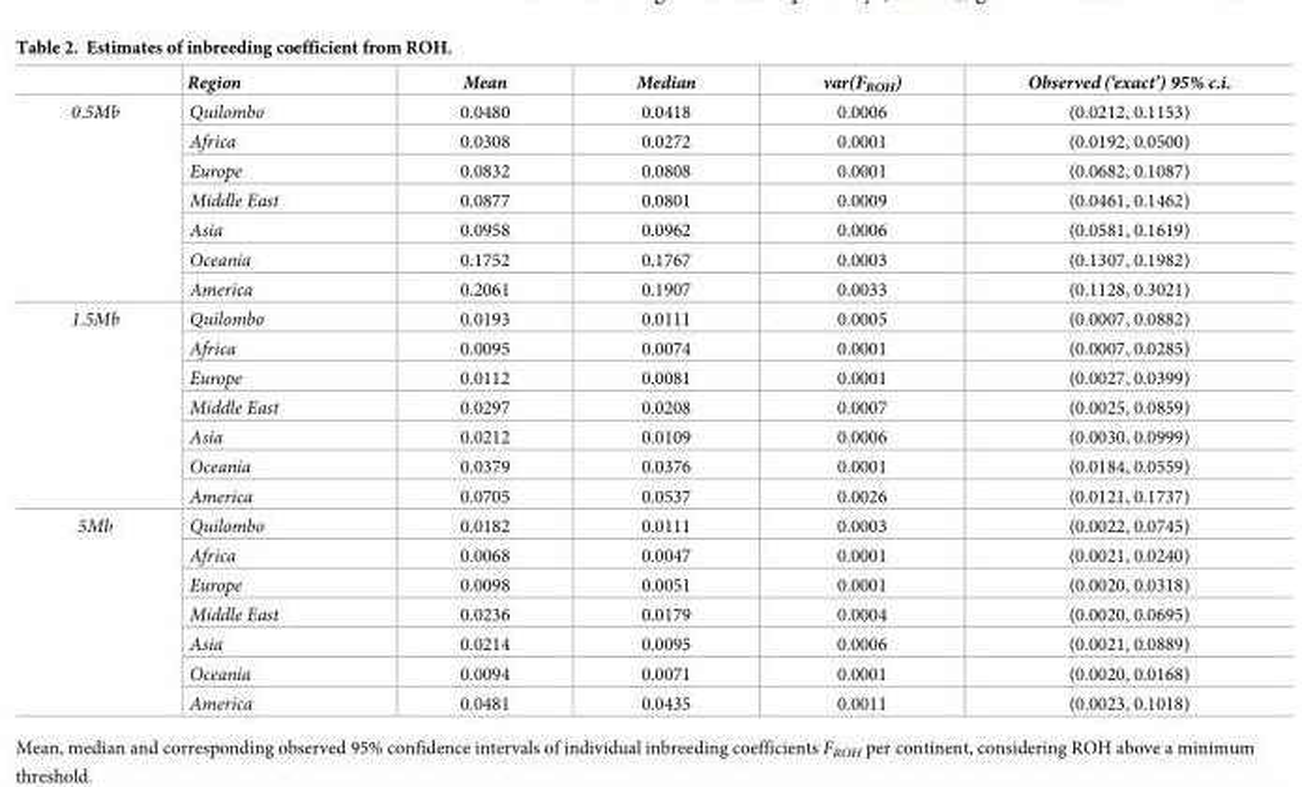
<table><thead><tr><td></td><td>Region</td><td>Mean</td><td>Median</td><td>var(F<sub>ROH</sub>)</td><td>Observed(‘exact’) 95% c.i.</td></tr></thead><tbody><tr><td rowspan="7">0.5Mb</td><td>Quilombo</td><td>0.0480</td><td>0.0418</td><td>0.0006</td><td>(0.0212, 0.1153)</td></tr><tr><td>Africa</td><td>0.0308</td><td>0.0272</td><td>0.0001</td><td>(0.0192, 0.0500)</td></tr><tr><td>Europe</td><td>0.0832</td><td>0.0808</td><td>0.0001</td><td>(0.0682, 0.1087)</td></tr><tr><td>Middle East</td><td>0.0877</td><td>0.0801</td><td>0.0009</td><td>(0.0461, 0.1462)</td></tr><tr><td>Asia</td><td>0.0958</td><td>0.0962</td><td>0.0006</td><td>(0.0581, 0.1619)</td></tr><tr><td>Oceania</td><td>0.1752</td><td>0.1767</td><td>0.0003</td><td>(0.1307, 0.1982)</td></tr><tr><td>America</td><td>0.2061</td><td>0.1907</td><td>0.0033</td><td>(0.1128, 0.3021)</td></tr><tr><td rowspan="7">1.5Mb</td><td>Quilombo</td><td>0.0193</td><td>0.0111</td><td>0.0005</td><td>(0.0007, 0.0882)</td></tr><tr><td>Africa</td><td>0.0095</td><td>0.0074</td><td>0.0001</td><td>(0.0007, 0.0285)</td></tr><tr><td>Europe</td><td>0.0112</td><td>0.0081</td><td>0.0001</td><td>(0.0027, 0.0399)</td></tr><tr><td>Middle East</td><td>0.0297</td><td>0.0208</td><td>0.0007</td><td>(0.0025, 0.0859)</td></tr><tr><td>Asia</td><td>0.0212</td><td>0.0109</td><td>0.0006</td><td>(0.0030, 0.0999)</td></tr><tr><td>Oceania</td><td>0.0379</td><td>0.0376</td><td>0.0001</td><td>(0.0184, 0.0559)</td></tr><tr><td>America</td><td>0.0705</td><td>0.0537</td><td>0.0026</td><td>(0.0121, 0.1737)</td></tr><tr><td rowspan="7">5Mb</td><td>Quilombo</td><td>0.0182</td><td>0.0111</td><td>0.0003</td><td>(0.0022, 0.0745)</td></tr><tr><td>Africa</td><td>0.0068</td><td>0.0047</td><td>0.0001</td><td>(0.0021, 0.0240)</td></tr><tr><td>Europe</td><td>0.0098</td><td>0.0051</td><td>0.0001</td><td>(0.0020, 0.0318)</td></tr><tr><td>Middle East</td><td>0.0236</td><td>0.0179</td><td>0.0004</td><td>(0.0020, 0.0695)</td></tr><tr><td>Asia</td><td>0.0214</td><td>0.0095</td><td>0.0006</td><td>(0.0021, 0.0889)</td></tr><tr><td>Oceania</td><td>0.0094</td><td>0.0071</td><td>0.0001</td><td>(0.0020, 0.0168)</td></tr><tr><td>America</td><td>0.0481</td><td>0.0435</td><td>0.0011</td><td>(0.0023, 0.1018)</td></tr></tbody></table>